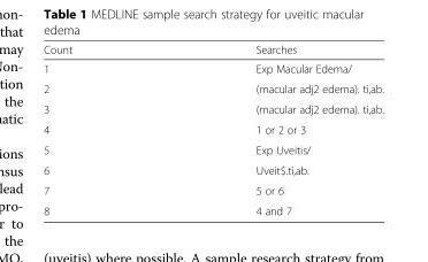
<table><thead><tr><td>Count</td><td>Searches</td></tr></thead><tbody><tr><td>1</td><td>Exp Macular Edema/</td></tr><tr><td>2</td><td>(macular adj2 edema). ti,ab.</td></tr><tr><td>3</td><td>(macular adj2 edema). ti,ab.</td></tr><tr><td>4</td><td>1 or 2 or 3</td></tr><tr><td>5</td><td>Exp Uveitis/</td></tr><tr><td>6</td><td>Uveit$.ti,ab.</td></tr><tr><td>7</td><td>5 or 6</td></tr><tr><td>8</td><td>4 and 7</td></tr></tbody></table>